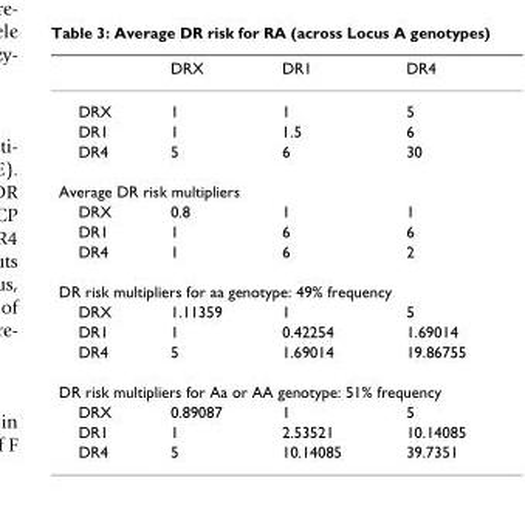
<table><thead><tr><td></td><td>DRX</td><td>DR1</td><td>DR4</td></tr></thead><tbody><tr><td>DRX</td><td>1</td><td>1</td><td>5</td></tr><tr><td>DR1</td><td>1</td><td>1.5</td><td>6</td></tr><tr><td>DR4</td><td>5</td><td>6</td><td>30</td></tr><tr><td colspan="4">Average DR risk multipliers</td></tr><tr><td>DRX</td><td>0.8</td><td>1</td><td>1</td></tr><tr><td>DR1</td><td>1</td><td>6</td><td>6</td></tr><tr><td>DR4</td><td>1</td><td>6</td><td>2</td></tr><tr><td colspan="4">DR risk multipliers for aa genotype: 49% frequency</td></tr><tr><td>DRX</td><td>1.11359</td><td>1</td><td>5</td></tr><tr><td>DR1</td><td>1</td><td>0.42254</td><td>1.69014</td></tr><tr><td>DR4</td><td>5</td><td>1.69014</td><td>19.86755</td></tr><tr><td colspan="4">DR risk multipliers for Aa or AA genotype: 51% frequency</td></tr><tr><td>DRX</td><td>0.89087</td><td>1</td><td>5</td></tr><tr><td>DR1</td><td>1</td><td>2.53521</td><td>10.14085</td></tr><tr><td>DR4</td><td>5</td><td>10.14085</td><td>39.7351</td></tr></tbody></table>